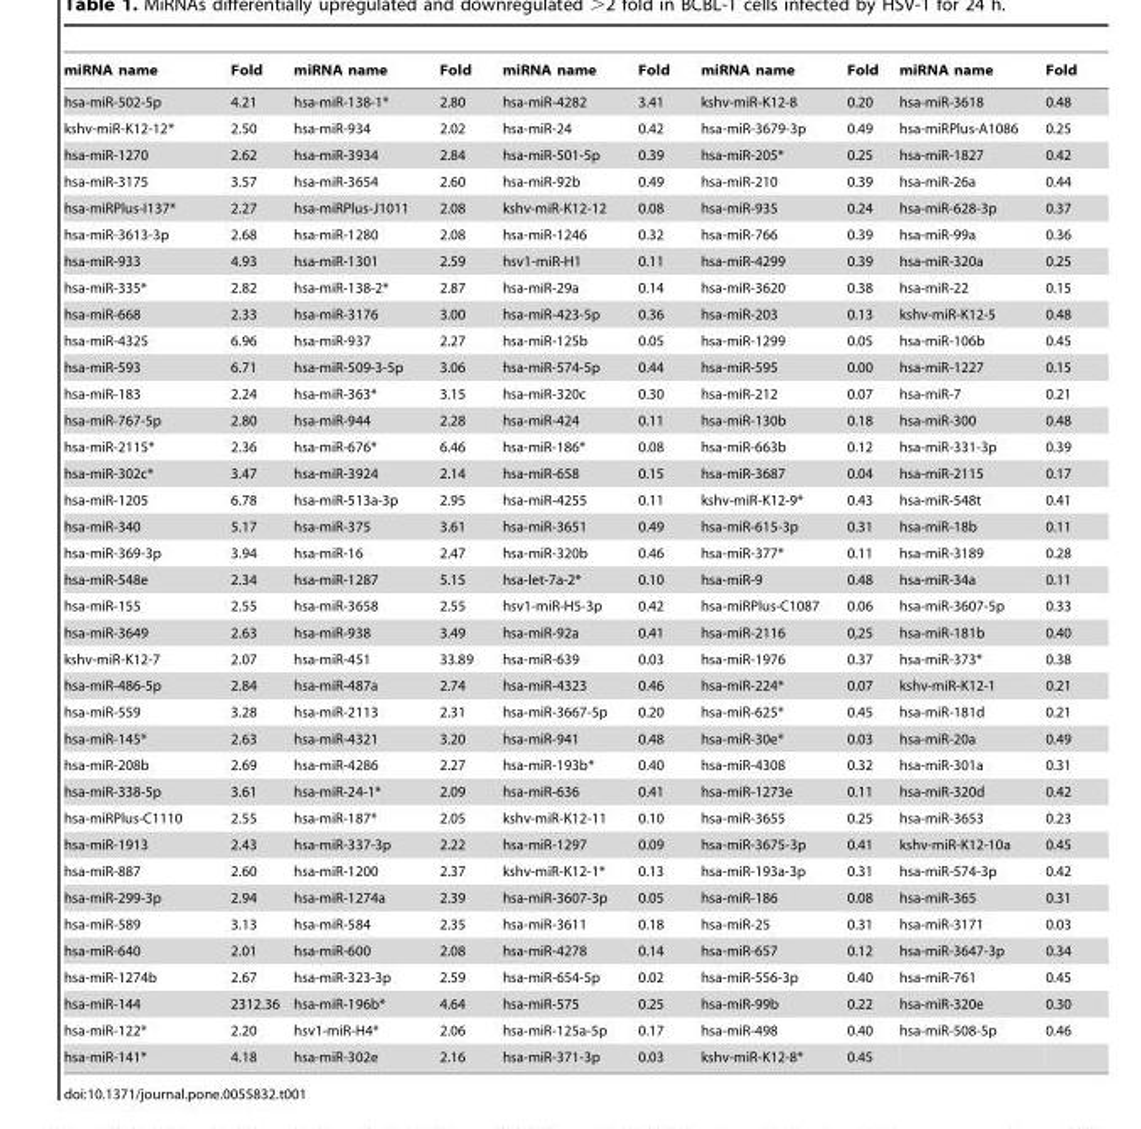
<table><thead><tr><td>miRNA name</td><td>Fold</td><td>miRNA name</td><td>Fold</td><td>miRNA name</td><td>Fold</td><td>miRNA name</td><td>Fold</td><td>miRNA name</td><td>Fold</td></tr></thead><tbody><tr><td>hsa-miR-502-5p</td><td>4.21</td><td>hsa-miR-138-1*</td><td>2.80</td><td>hsa-miR-4282</td><td>3.41</td><td>kshv-miR-K12-8</td><td>0.20</td><td>hsa-miR-3618</td><td>0.48</td></tr><tr><td>kshv-miR-K12-12*</td><td>2.50</td><td>hsa-miR-934</td><td>2.02</td><td>hsa-miR-24</td><td>0.42</td><td>hsa-miR-3679-3p</td><td>0.49</td><td>hsa-miRPlus-A1086</td><td>0.25</td></tr><tr><td>hsa-miR-1270</td><td>2.62</td><td>hsa-miR-3934</td><td>2.84</td><td>hsa-miR-501-5p</td><td>0.39</td><td>hsa-miR-205*</td><td>0.25</td><td>hsa-miR-1827</td><td>0.42</td></tr><tr><td>hsa-miR-3175</td><td>3.57</td><td>hsa-miR-3654</td><td>2.60</td><td>hsa-miR-92b</td><td>0.49</td><td>hsa-miR-210</td><td>0.39</td><td>hsa-miR-26a</td><td>0.44</td></tr><tr><td>hsa-miRPlus-I137*</td><td>2.27</td><td>hsa-miRPlus-J1011</td><td>2.08</td><td>kshv-miR-K12-12</td><td>0.08</td><td>hsa-miR-935</td><td>0.24</td><td>hsa-miR-628-3p</td><td>0.37</td></tr><tr><td>hsa-miR-3613-3p</td><td>2.68</td><td>hsa-miR-1280</td><td>2.08</td><td>hsa-miR-1246</td><td>0.32</td><td>hsa-miR-766</td><td>0.39</td><td>hsa-miR-99a</td><td>0.36</td></tr><tr><td>hsa-miR-933</td><td>4.93</td><td>hsa-miR-1301</td><td>2.59</td><td>hsv1-miR-H1</td><td>0.11</td><td>hsa-miR-4299</td><td>0.39</td><td>hsa-miR-320a</td><td>0.25</td></tr><tr><td>hsa-miR-335*</td><td>2.82</td><td>hsa-miR-138-2*</td><td>2.87</td><td>hsa-miR-29a</td><td>0.14</td><td>hsa-miR-3620</td><td>0.38</td><td>hsa-miR-22</td><td>0.15</td></tr><tr><td>hsa-miR-668</td><td>2.33</td><td>hsa-miR-3176</td><td>3.00</td><td>hsa-miR-423-5p</td><td>0.36</td><td>hsa-miR-203</td><td>0.13</td><td>kshv-miR-K12-5</td><td>0.48</td></tr><tr><td>hsa-miR-4325</td><td>6.96</td><td>hsa-miR-937</td><td>2.27</td><td>hsa-miR-125b</td><td>0.05</td><td>hsa-miR-1299</td><td>0.05</td><td>hsa-miR-106b</td><td>0.45</td></tr><tr><td>hsa-miR-593</td><td>6.71</td><td>hsa-miR-509-3-5p</td><td>3.06</td><td>hsa-miR-574-5p</td><td>0.44</td><td>hsa-miR-595</td><td>0.00</td><td>hsa-miR-1227</td><td>0.15</td></tr><tr><td>hsa-miR-183</td><td>2.24</td><td>hsa-miR-363*</td><td>3.15</td><td>hsa-miR-320c</td><td>0.30</td><td>hsa-miR-212</td><td>0.07</td><td>hsa-miR-7</td><td>0.21</td></tr><tr><td>hsa-miR-767-5p</td><td>2.80</td><td>hsa-miR-944</td><td>2.28</td><td>hsa-miR-424</td><td>0.11</td><td>hsa-miR-130b</td><td>0.18</td><td>hsa-miR-300</td><td>0.48</td></tr><tr><td>hsa-miR-2115*</td><td>2.36</td><td>hsa-miR-676*</td><td>6.46</td><td>hsa-miR-186*</td><td>0.08</td><td>hsa-miR-663b</td><td>0.12</td><td>hsa-miR-331-3p</td><td>0.39</td></tr><tr><td>hsa-miR-302c*</td><td>3.47</td><td>hsa-miR-3924</td><td>2.14</td><td>hsa-miR-658</td><td>0.15</td><td>hsa-miR-3687</td><td>0.04</td><td>hsa-miR-2115</td><td>0.17</td></tr><tr><td>hsa-miR-1205</td><td>6.78</td><td>hsa-miR-513a-3p</td><td>2.95</td><td>hsa-miR-4255</td><td>0.11</td><td>kshv-miR-K12-9*</td><td>0.43</td><td>hsa-miR-548t</td><td>0.41</td></tr><tr><td>hsa-miR-340</td><td>5.17</td><td>hsa-miR-375</td><td>3.61</td><td>hsa-miR-3651</td><td>0.49</td><td>hsa-miR-615-3p</td><td>0.31</td><td>hsa-miR-18b</td><td>0.11</td></tr><tr><td>hsa-miR-369-3p</td><td>3.94</td><td>hsa-miR-16</td><td>2.47</td><td>hsa-miR-320b</td><td>0.46</td><td>hsa-miR-377*</td><td>0.11</td><td>hsa-miR-3189</td><td>0.28</td></tr><tr><td>hsa-miR-548e</td><td>2.34</td><td>hsa-miR-1287</td><td>5.15</td><td>hsa-let-7a-2*</td><td>0.10</td><td>hsa-miR-9</td><td>0.48</td><td>hsa-miR-34a</td><td>0.11</td></tr><tr><td>hsa-miR-155</td><td>2.55</td><td>hsa-miR-3658</td><td>2.55</td><td>hsv1-miR-H5-3p</td><td>0.42</td><td>hsa-miRPlus-C1087</td><td>0.06</td><td>hsa-miR-3607-5p</td><td>0.33</td></tr><tr><td>hsa-miR-3649</td><td>2.63</td><td>hsa-miR-938</td><td>3.49</td><td>hsa-miR-92a</td><td>0.41</td><td>hsa-miR-2116</td><td>0,25</td><td>hsa-miR-181b</td><td>0.40</td></tr><tr><td>kshv-miR-K12-7</td><td>2.07</td><td>hsa-miR-451</td><td>33.89</td><td>hsa-miR-639</td><td>0.03</td><td>hsa-miR-1976</td><td>0.37</td><td>hsa-miR-373*</td><td>0.38</td></tr><tr><td>hsa-miR-486-5p</td><td>2.84</td><td>hsa-miR-487a</td><td>2.74</td><td>hsa-miR-4323</td><td>0.46</td><td>hsa-miR-224*</td><td>0.07</td><td>kshv-miR-K12-1</td><td>0.21</td></tr><tr><td>hsa-miR-559</td><td>3.28</td><td>hsa-miR-2113</td><td>2.31</td><td>hsa-miR-3667-5p</td><td>0.20</td><td>hsa-miR-625*</td><td>0.45</td><td>hsa-miR-181d</td><td>0.21</td></tr><tr><td>hsa-miR-145*</td><td>2.63</td><td>hsa-miR-4321</td><td>3.20</td><td>hsa-miR-941</td><td>0.48</td><td>hsa-miR-30e*</td><td>0.03</td><td>hsa-miR-20a</td><td>0.49</td></tr><tr><td>hsa-miR-208b</td><td>2.69</td><td>hsa-miR-4286</td><td>2.27</td><td>hsa-miR-193b*</td><td>0.40</td><td>hsa-miR-4308</td><td>0.32</td><td>hsa-miR-301a</td><td>0.31</td></tr><tr><td>hsa-miR-338-5p</td><td>3.61</td><td>hsa-miR-24-1*</td><td>2.09</td><td>hsa-miR-636</td><td>0.41</td><td>hsa-miR-1273e</td><td>0.11</td><td>hsa-miR-320d</td><td>0.42</td></tr><tr><td>hsa-miRPlus-C1110</td><td>2.55</td><td>hsa-miR-187*</td><td>2.05</td><td>kshv-miR-K12-11</td><td>0.10</td><td>hsa-miR-3655</td><td>0.25</td><td>hsa-miR-3653</td><td>0.23</td></tr><tr><td>hsa-miR-1913</td><td>2.43</td><td>hsa-miR-337-3p</td><td>2.22</td><td>hsa-miR-1297</td><td>0.09</td><td>hsa-miR-3675-3p</td><td>0.41</td><td>kshv-miR-K12-10a</td><td>0.45</td></tr><tr><td>hsa-miR-887</td><td>2.60</td><td>hsa-miR-1200</td><td>2.37</td><td>kshv-miR-K12-1*</td><td>0.13</td><td>hsa-miR-193a-3p</td><td>0.31</td><td>hsa-miR-574-3p</td><td>0.42</td></tr><tr><td>hsa-miR-299-3p</td><td>2.94</td><td>hsa-miR-1274a</td><td>2.39</td><td>hsa-miR-3607-3p</td><td>0.05</td><td>hsa-miR-186</td><td>0.08</td><td>hsa-miR-365</td><td>0.31</td></tr><tr><td>hsa-miR-589</td><td>3.13</td><td>hsa-miR-584</td><td>2.35</td><td>hsa-miR-3611</td><td>0.18</td><td>hsa-miR-25</td><td>0.31</td><td>hsa-miR-3171</td><td>0.03</td></tr><tr><td>hsa-miR-640</td><td>2.01</td><td>hsa-miR-600</td><td>2.08</td><td>hsa-miR-4278</td><td>0.14</td><td>hsa-miR-657</td><td>0.12</td><td>hsa-miR-3647-3p</td><td>0.34</td></tr><tr><td>hsa-miR-1274b</td><td>2.67</td><td>hsa-miR-323-3p</td><td>2.59</td><td>hsa-miR-654-5p</td><td>0.02</td><td>hsa-miR-556-3p</td><td>0.40</td><td>hsa-miR-761</td><td>0.45</td></tr><tr><td>hsa-miR-144</td><td>2312.36</td><td>hsa-miR-196b*</td><td>4.64</td><td>hsa-miR-575</td><td>0.25</td><td>hsa-miR-99b</td><td>0.22</td><td>hsa-miR-320e</td><td>0.30</td></tr><tr><td>hsa-miR-122*</td><td>2.20</td><td>hsv1-miR-H4*</td><td>2.06</td><td>hsa-miR-125a-5p</td><td>0.17</td><td>hsa-miR-498</td><td>0.40</td><td>hsa-miR-508-5p</td><td>0.46</td></tr><tr><td>hsa-miR-141*</td><td>4.18</td><td>hsa-miR-302e</td><td>2.16</td><td>hsa-miR-371-3p</td><td>0.03</td><td>kshv-miR-K12-8*</td><td>0.45</td><td></td><td></td></tr></tbody></table>